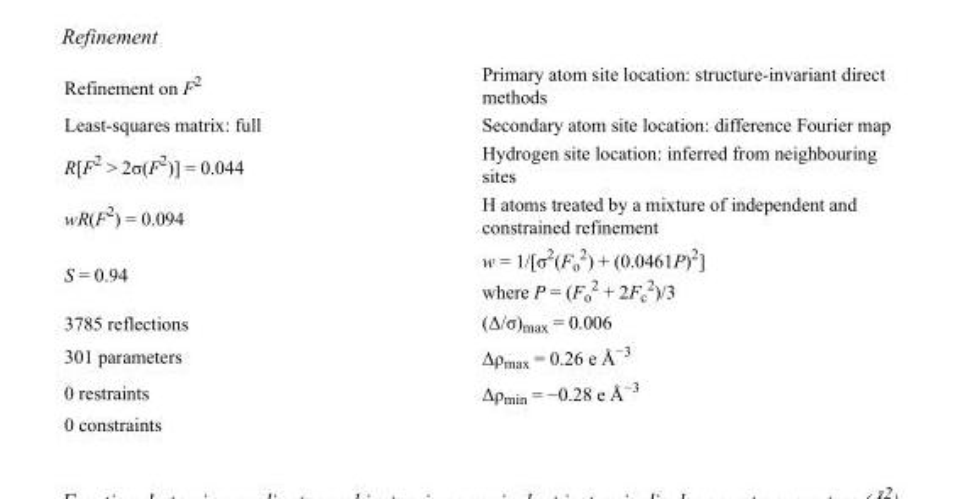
<table><tbody><tr><td>Refinement on F<sup>2</sup></td><td>Primary atom site location: structure-invariant direct methods</td></tr><tr><td>Least-squares matrix: full</td><td>Secondary atom site location: difference Fourier map</td></tr><tr><td>R[F<sup>2</sup> &gt; 2σ(F<sup>2</sup>)] = 0.044</td><td>Hydrogen site location: inferred from neighbouring sites</td></tr><tr><td>wR(F<sup>2</sup>) = 0.094</td><td>H atoms treated by a mixture of independent and constrained refinement</td></tr><tr><td>S = 0.94</td><td>w = 1/[σ<sup>2</sup>(F<sub>o</sub> <sup>2</sup>) + (0.0461P)<sup>2</sup>] where P = (F<sub>o</sub> <sup>2</sup> + 2F<sub>c</sub> <sup>2</sup>)/3</td></tr><tr><td>3785 reflections</td><td>(Δ/σ)<sub>max</sub> = 0.006</td></tr><tr><td>301 parameters</td><td>Δρ<sub>max</sub> = 0.26 e Å<sup>−3</sup></td></tr><tr><td>0 restraints</td><td>Δρ<sub>min</sub> = −0.28 e Å<sup>−3</sup></td></tr><tr><td>0 constraints</td><td></td></tr></tbody></table>